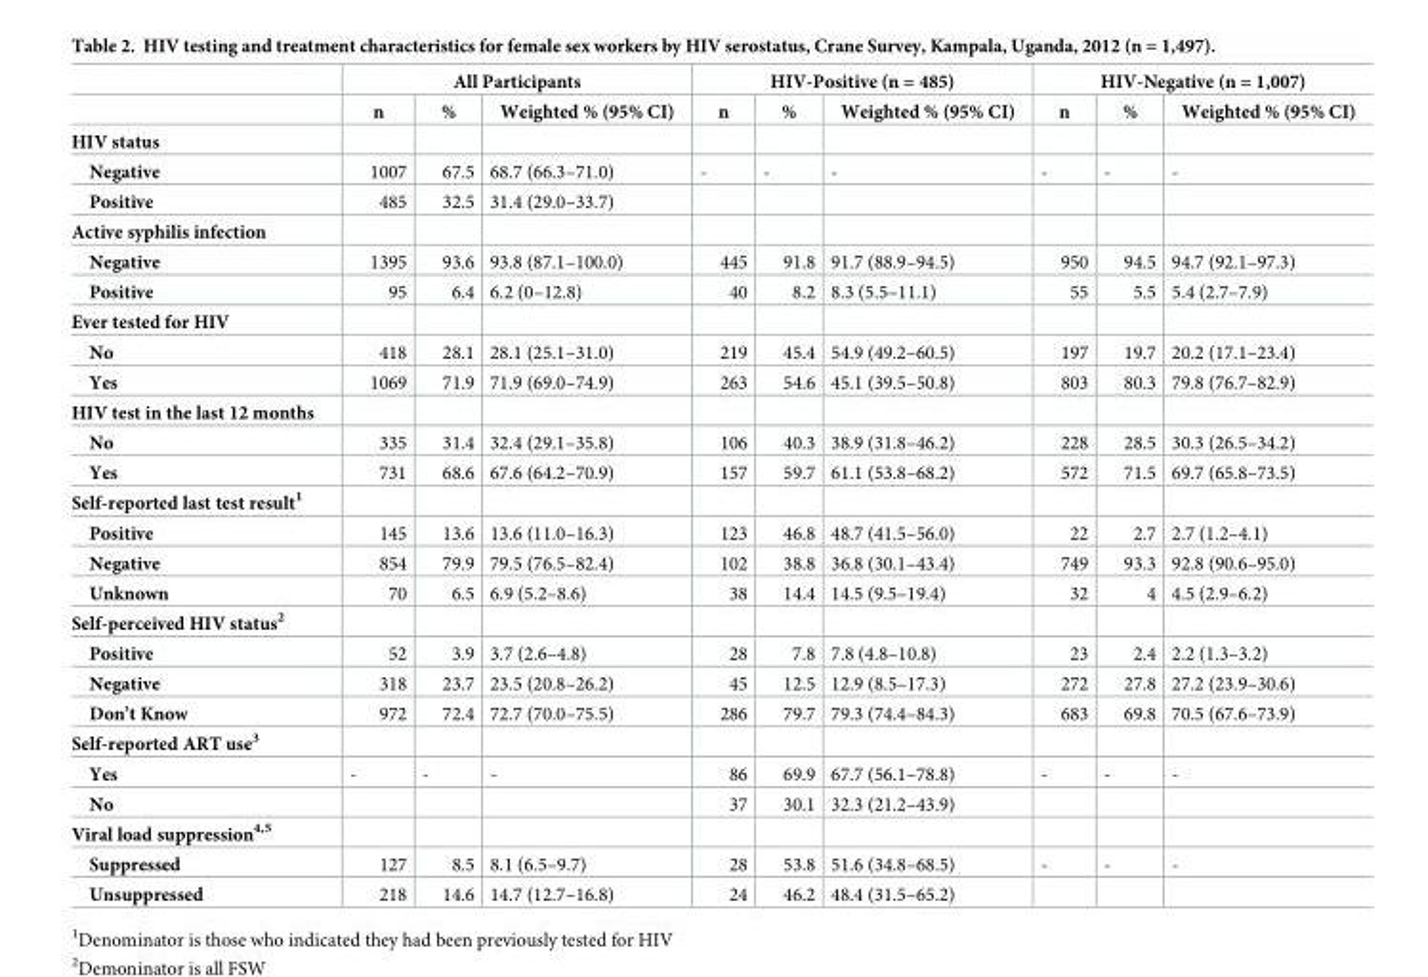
<table><thead><tr><td rowspan="2"></td><td colspan="3">All Participants</td><td colspan="3">HIV-Positive (n = 485)</td><td colspan="3">HIV-Negative (n = 1,007)</td></tr><tr><td>n</td><td>%</td><td>Weighted % (95% CI)</td><td>n</td><td>%</td><td>Weighted % (95% CI)</td><td>n</td><td>%</td><td>Weighted % (95% CI)</td></tr></thead><tbody><tr><td colspan="10">HIV status</td></tr><tr><td>Negative</td><td>1007</td><td>67.5</td><td>68.7 (66.3–71.0)</td><td>-</td><td>-</td><td>-</td><td>-</td><td>-</td><td>-</td></tr><tr><td>Positive</td><td>485</td><td>32.5</td><td>31.4 (29.0–33.7)</td><td></td><td></td><td></td><td></td><td></td><td></td></tr><tr><td colspan="10">Active syphilis infection</td></tr><tr><td>Negative</td><td>1395</td><td>93.6</td><td>93.8 (87.1–100.0)</td><td>445</td><td>91.8</td><td>91.7 (88.9–94.5)</td><td>950</td><td>94.5</td><td>94.7 (92.1–97.3)</td></tr><tr><td>Positive</td><td>95</td><td>6.4</td><td>6.2 (0–12.8)</td><td>40</td><td>8.2</td><td>8.3 (5.5–11.1)</td><td>55</td><td>5.5</td><td>5.4 (2.7–7.9)</td></tr><tr><td colspan="10">Ever tested for HIV</td></tr><tr><td>No</td><td>418</td><td>28.1</td><td>28.1 (25.1–31.0)</td><td>219</td><td>45.4</td><td>54.9 (49.2–60.5)</td><td>197</td><td>19.7</td><td>20.2 (17.1–23.4)</td></tr><tr><td>Yes</td><td>1069</td><td>71.9</td><td>71.9 (69.0–74.9)</td><td>263</td><td>54.6</td><td>45.1 (39.5–50.8)</td><td>803</td><td>80.3</td><td>79.8 (76.7–82.9)</td></tr><tr><td colspan="10">HIV test in the last 12 months</td></tr><tr><td>No</td><td>335</td><td>31.4</td><td>32.4 (29.1–35.8)</td><td>106</td><td>40.3</td><td>38.9 (31.8–46.2)</td><td>228</td><td>28.5</td><td>30.3 (26.5–34.2)</td></tr><tr><td>Yes</td><td>731</td><td>68.6</td><td>67.6 (64.2–70.9)</td><td>157</td><td>59.7</td><td>61.1 (53.8–68.2)</td><td>572</td><td>71.5</td><td>69.7 (65.8–73.5)</td></tr><tr><td colspan="10">Self-reported last test result<sup>1</sup></td></tr><tr><td>Positive</td><td>145</td><td>13.6</td><td>13.6 (11.0–16.3)</td><td>123</td><td>46.8</td><td>48.7 (41.5–56.0)</td><td>22</td><td>2.7</td><td>2.7 (1.2–4.1)</td></tr><tr><td>Negative</td><td>854</td><td>79.9</td><td>79.5 (76.5–82.4)</td><td>102</td><td>38.8</td><td>36.8 (30.1–43.4)</td><td>749</td><td>93.3</td><td>92.8 (90.6–95.0)</td></tr><tr><td>Unknown</td><td>70</td><td>6.5</td><td>6.9 (5.2–8.6)</td><td>38</td><td>14.4</td><td>14.5 (9.5–19.4)</td><td>32</td><td>4</td><td>4.5 (2.9–6.2)</td></tr><tr><td colspan="10">Self-perceived HIV status<sup>2</sup></td></tr><tr><td>Positive</td><td>52</td><td>3.9</td><td>3.7 (2.6–4.8)</td><td>28</td><td>7.8</td><td>7.8 (4.8–10.8)</td><td>23</td><td>2.4</td><td>2.2 (1.3–3.2)</td></tr><tr><td>Negative</td><td>318</td><td>23.7</td><td>23.5 (20.8–26.2)</td><td>45</td><td>12.5</td><td>12.9 (8.5–17.3)</td><td>272</td><td>27.8</td><td>27.2 (23.9–30.6)</td></tr><tr><td>Don’t Know</td><td>972</td><td>72.4</td><td>72.7 (70.0–75.5)</td><td>286</td><td>79.7</td><td>79.3 (74.4–84.3)</td><td>683</td><td>69.8</td><td>70.5 (67.6–73.9)</td></tr><tr><td colspan="10">Self-reported ART use<sup>3</sup></td></tr><tr><td>Yes</td><td>-</td><td>-</td><td>-</td><td>86</td><td>69.9</td><td>67.7 (56.1–78.8)</td><td>-</td><td>-</td><td>-</td></tr><tr><td>No</td><td></td><td></td><td></td><td>37</td><td>30.1</td><td>32.3 (21.2–43.9)</td><td></td><td></td><td></td></tr><tr><td colspan="10">Viral load suppression<sup>4,5</sup></td></tr><tr><td>Suppressed</td><td>127</td><td>8.5</td><td>8.1 (6.5–9.7)</td><td>28</td><td>53.8</td><td>51.6 (34.8–68.5)</td><td>-</td><td>-</td><td>-</td></tr><tr><td>Unsuppressed</td><td>218</td><td>14.6</td><td>14.7 (12.7–16.8)</td><td>24</td><td>46.2</td><td>48.4 (31.5–65.2)</td><td></td><td></td><td></td></tr></tbody></table>